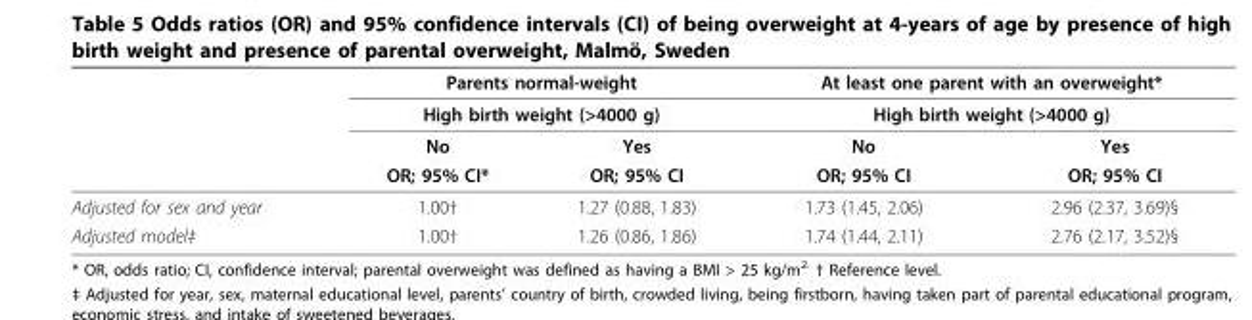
<table><thead><tr><td rowspan="4"></td><td rowspan="2" colspan="2">Parents normal-weight High birth weight (&gt;4000 g)</td><td rowspan="2" colspan="2">At least one parent with an overweight* High birth weight (&gt;4000 g)</td></tr><tr></tr><tr><td rowspan="2">No OR; 95% CI*</td><td rowspan="2">Yes OR; 95% CI</td><td rowspan="2">No OR; 95% CI</td><td rowspan="2">Yes OR; 95% CI</td></tr><tr></tr></thead><tbody><tr><td>Adjusted for sex and year</td><td>1.00†</td><td>1.27 (0.88, 1.83)</td><td>1.73 (1.45, 2.06)</td><td>2.96 (2.37, 3.69)§</td></tr><tr><td>Adjusted model‡</td><td>1.00†</td><td>1.26 (0.86, 1.86)</td><td>1.74 (1.44, 2.11)</td><td>2.76 (2.17, 3.52)§</td></tr></tbody></table>